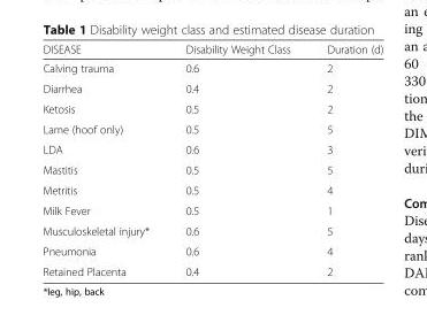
<table><thead><tr><td>DISEASE</td><td>Disability Weight Class</td><td>Duration (d)</td></tr></thead><tbody><tr><td>Calving trauma</td><td>0.6</td><td>2</td></tr><tr><td>Diarrhea</td><td>0.4</td><td>2</td></tr><tr><td>Ketosis</td><td>0.5</td><td>2</td></tr><tr><td>Lame (hoof only)</td><td>0.5</td><td>5</td></tr><tr><td>LDA</td><td>0.6</td><td>3</td></tr><tr><td>Mastitis</td><td>0.5</td><td>5</td></tr><tr><td>Metritis</td><td>0.5</td><td>4</td></tr><tr><td>Milk Fever</td><td>0.5</td><td>1</td></tr><tr><td>Musculoskeletal injury*</td><td>0.6</td><td>5</td></tr><tr><td>Pneumonia</td><td>0.6</td><td>4</td></tr><tr><td>Retained Placenta</td><td>0.4</td><td>2</td></tr></tbody></table>